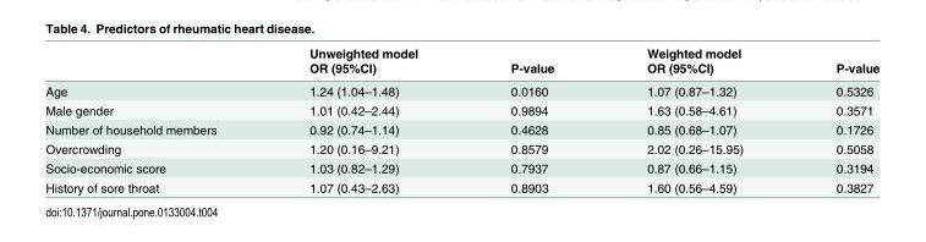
<table><thead><tr><td rowspan="2"></td><td rowspan="2">Unweighted model OR (95%CI)</td><td rowspan="2">P-value</td><td rowspan="2">Weighted model OR (95%CI)</td><td rowspan="2">P-value</td></tr><tr></tr></thead><tbody><tr><td>Age</td><td>1.24 (1.04–1.48)</td><td>0.0160</td><td>1.07 (0.87–1.32)</td><td>0.5326</td></tr><tr><td>Male gender</td><td>1.01 (0.42–2.44)</td><td>0.9894</td><td>1.63 (0.58–4.61)</td><td>0.3571</td></tr><tr><td>Number of household members</td><td>0.92 (0.74–1.14)</td><td>0.4628</td><td>0.85 (0.68–1.07)</td><td>0.1726</td></tr><tr><td>Overcrowding</td><td>1.20 (0.16–9.21)</td><td>0.8579</td><td>2.02 (0.26–15.95)</td><td>0.5058</td></tr><tr><td>Socio-economic score</td><td>1.03 (0.82–1.29)</td><td>0.7937</td><td>0.87 (0.66–1.15)</td><td>0.3194</td></tr><tr><td>History of sore throat</td><td>1.07 (0.43–2.63)</td><td>0.8903</td><td>1.60 (0.56–4.59)</td><td>0.3827</td></tr></tbody></table>